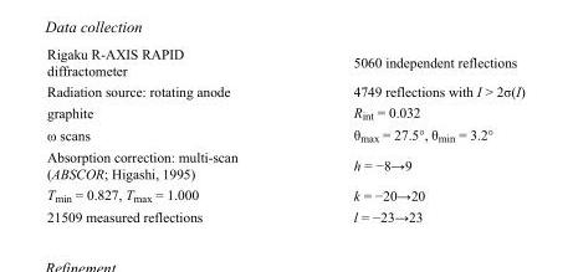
<table><tbody><tr><td>Rigaku R-AXIS RAPID diffractometer</td><td>5060 independent reflections</td></tr><tr><td>Radiation source: rotating anode</td><td>4749 reflections with I &gt; 2σ(I)</td></tr><tr><td>graphite</td><td>R<sub>int</sub> = 0.032</td></tr><tr><td>ω scans</td><td>θ<sub>max</sub> = 27.5°, θ<sub>min</sub> = 3.2°</td></tr><tr><td>Absorption correction: multi-scan (ABSCOR; Higashi, 1995)</td><td>h = −8→9</td></tr><tr><td>T<sub>min</sub> = 0.827, T<sub>max</sub> = 1.000</td><td>k = −20→20</td></tr><tr><td>21509 measured reflections</td><td>l = −23→23</td></tr></tbody></table>